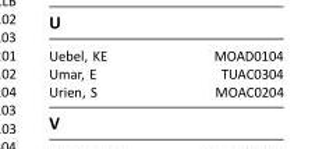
<table><tbody><tr><td>Uebel, KE</td><td>MOAD0104</td></tr><tr><td>Umar, E</td><td>TUAC0304</td></tr><tr><td>Urien, S</td><td>MOAC0204</td></tr></tbody></table>